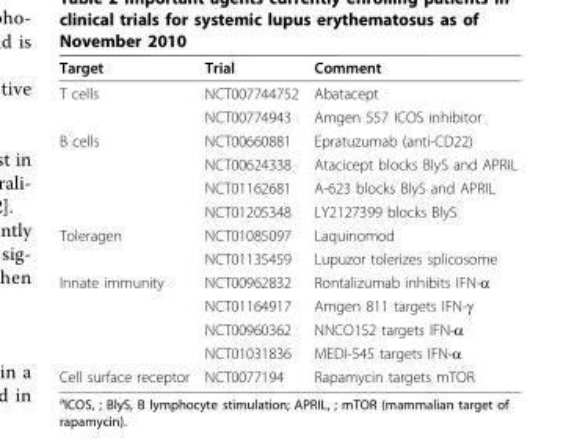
<table><thead><tr><td>Target</td><td>Trial</td><td>Comment</td></tr></thead><tbody><tr><td rowspan="2">T cells</td><td>NCT007744752</td><td>Abatacept</td></tr><tr><td>NCT00774943</td><td>Amgen 557 ICOS inhibitor</td></tr><tr><td rowspan="4">B cells</td><td>NCT00660881</td><td>Epratuzumab (anti-CD22)</td></tr><tr><td>NCT00624338</td><td>Atacicept blocks BlyS and APRIL</td></tr><tr><td>NCT01162681</td><td>A-623 blocks BlyS and APRIL</td></tr><tr><td>NCT01205348</td><td>LY2127399 blocks BlyS</td></tr><tr><td rowspan="2">Toleragen</td><td>NCT01085097</td><td>Laquinomod</td></tr><tr><td>NCT01135459</td><td>Lupuzor tolerizes splicosome</td></tr><tr><td rowspan="4">Innate immunity</td><td>NCT00962832</td><td>Rontalizumab inhibits IFN-α</td></tr><tr><td>NCT01164917</td><td>Amgen 811 targets IFN-γ</td></tr><tr><td>NCT00960362</td><td>NNCO152 targets IFN-α</td></tr><tr><td>NCT01031836</td><td>MEDI-545 targets IFN-α</td></tr><tr><td>Cell surface receptor</td><td>NCT0077194</td><td>Rapamycin targets mTOR</td></tr></tbody></table>